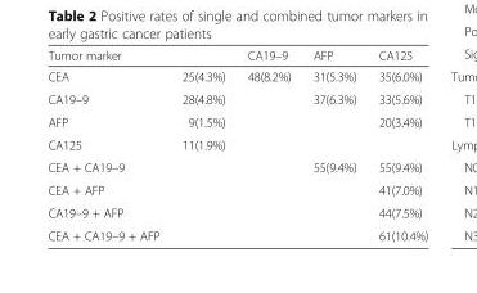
<table><thead><tr><td>Tumor marker</td><td></td><td>CA19–9</td><td>AFP</td><td>CA125</td></tr></thead><tbody><tr><td>CEA</td><td>25(4.3%)</td><td>48(8.2%)</td><td>31(5.3%)</td><td>35(6.0%)</td></tr><tr><td>CA19–9</td><td>28(4.8%)</td><td></td><td>37(6.3%)</td><td>33(5.6%)</td></tr><tr><td>AFP</td><td>9(1.5%)</td><td></td><td></td><td>20(3.4%)</td></tr><tr><td>CA125</td><td>11(1.9%)</td><td></td><td></td><td></td></tr><tr><td>CEA + CA19–9</td><td></td><td></td><td>55(9.4%)</td><td>55(9.4%)</td></tr><tr><td>CEA + AFP</td><td></td><td></td><td></td><td>41(7.0%)</td></tr><tr><td>CA19–9 + AFP</td><td></td><td></td><td></td><td>44(7.5%)</td></tr><tr><td>CEA + CA19–9 + AFP</td><td></td><td></td><td></td><td>61(10.4%)</td></tr></tbody></table>